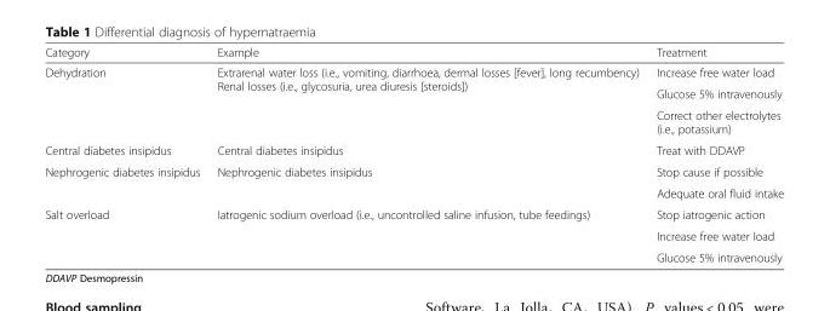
<table><thead><tr><td>Category</td><td>Example</td><td>Treatment</td></tr></thead><tbody><tr><td rowspan="3">Dehydration</td><td rowspan="3">Extrarenal water loss (i.e., vomiting, diarrhoea, dermal losses [fever], long recumbency) Renal losses (i.e., glycosuria, urea diuresis [steroids])</td><td>Increase free water load</td></tr><tr><td>Glucose 5% intravenously</td></tr><tr><td>Correct other electrolytes (i.e., potassium)</td></tr><tr><td>Central diabetes insipidus</td><td>Central diabetes insipidus</td><td>Treat with DDAVP</td></tr><tr><td rowspan="2">Nephrogenic diabetes insipidus</td><td rowspan="2">Nephrogenic diabetes insipidus</td><td>Stop cause if possible</td></tr><tr><td>Adequate oral fluid intake</td></tr><tr><td rowspan="3">Salt overload</td><td rowspan="3">Iatrogenic sodium overload (i.e., uncontrolled saline infusion, tube feedings)</td><td>Stop iatrogenic action</td></tr><tr><td>Increase free water load</td></tr><tr><td>Glucose 5% intravenously</td></tr></tbody></table>